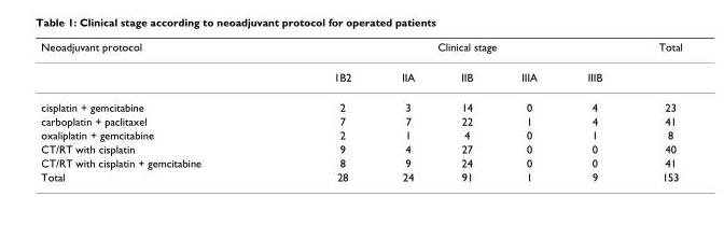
<table><thead><tr><td rowspan="2">Neoadjuvant protocol</td><td colspan="5">Clinical stage</td><td rowspan="2">Total</td></tr><tr><td>1B2</td><td>IIA</td><td>IIB</td><td>IIIA</td><td>IIIB</td></tr></thead><tbody><tr><td>cisplatin + gemcitabine</td><td>2</td><td>3</td><td>14</td><td>0</td><td>4</td><td>23</td></tr><tr><td>carboplatin + paclitaxel</td><td>7</td><td>7</td><td>22</td><td>1</td><td>4</td><td>41</td></tr><tr><td>oxaliplatin + gemcitabine</td><td>2</td><td>1</td><td>4</td><td>0</td><td>1</td><td>8</td></tr><tr><td>CT/RT with cisplatin</td><td>9</td><td>4</td><td>27</td><td>0</td><td>0</td><td>40</td></tr><tr><td>CT/RT with cisplatin + gemcitabine</td><td>8</td><td>9</td><td>24</td><td>0</td><td>0</td><td>41</td></tr><tr><td>Total</td><td>28</td><td>24</td><td>91</td><td>1</td><td>9</td><td>153</td></tr></tbody></table>